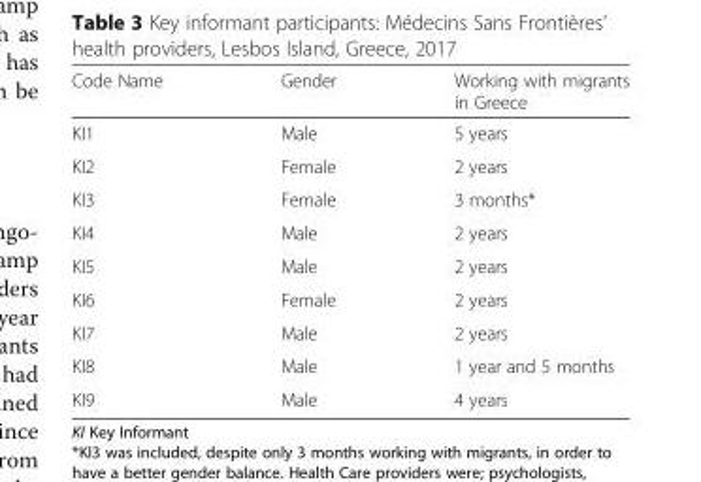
<table><thead><tr><td>Code Name</td><td>Gender</td><td>Working with migrants in Greece</td></tr></thead><tbody><tr><td>KI1</td><td>Male</td><td>5 years</td></tr><tr><td>KI2</td><td>Female</td><td>2 years</td></tr><tr><td>KI3</td><td>Female</td><td>3 months*</td></tr><tr><td>KI4</td><td>Male</td><td>2 years</td></tr><tr><td>KI5</td><td>Male</td><td>2 years</td></tr><tr><td>KI6</td><td>Female</td><td>2 years</td></tr><tr><td>KI7</td><td>Male</td><td>2 years</td></tr><tr><td>KI8</td><td>Male</td><td>1 year and 5 months</td></tr><tr><td>KI9</td><td>Male</td><td>4 years</td></tr></tbody></table>